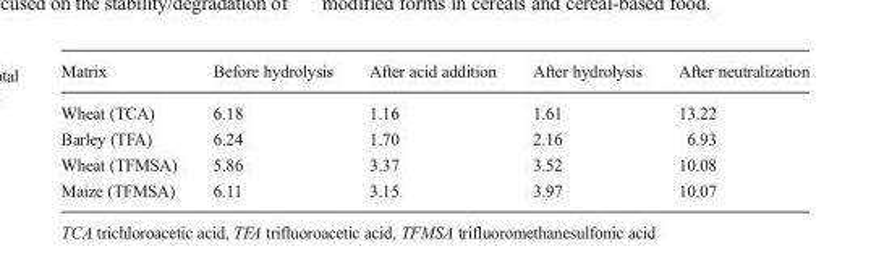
<table><thead><tr><td>Matrix</td><td>Before hydrolysis</td><td>After acid addition</td><td>After hydrolysis</td><td>After neutralization</td></tr></thead><tbody><tr><td>Wheat (TCA)</td><td>6.18</td><td>1.16</td><td>1.61</td><td>13.22</td></tr><tr><td>Barley (TFA)</td><td>6.24</td><td>1.70</td><td>2.16</td><td>6.93</td></tr><tr><td>Wheat (TFMSA)</td><td>5.86</td><td>3.37</td><td>3.52</td><td>10.08</td></tr><tr><td>Maize (TFMSA)</td><td>6.11</td><td>3.15</td><td>3.97</td><td>10.07</td></tr></tbody></table>